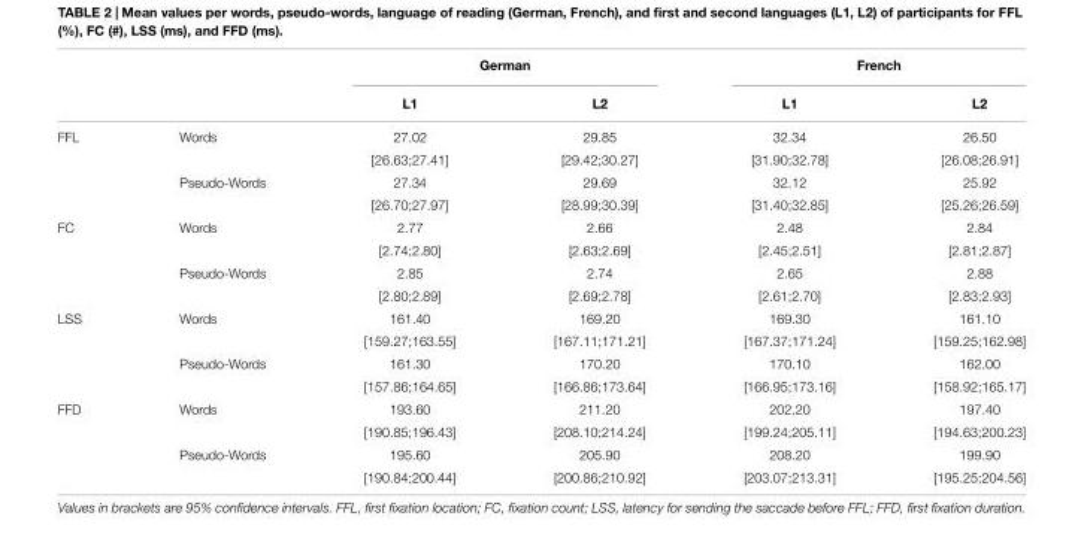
<table><thead><tr><td rowspan="2"></td><td rowspan="2"></td><td colspan="2">German</td><td colspan="2">French</td></tr><tr><td>L1</td><td>L2</td><td>L1</td><td>L2</td></tr></thead><tbody><tr><td rowspan="4">FFL</td><td>Words</td><td>27.02</td><td>29.85</td><td>32.34</td><td>26.50</td></tr><tr><td></td><td>[26.63;27.41]</td><td>[29.42;30.27]</td><td>[31.90;32.78]</td><td>[26.08;26.91]</td></tr><tr><td>Pseudo-Words</td><td>27.34</td><td>29.69</td><td>32.12</td><td>25.92</td></tr><tr><td></td><td>[26.70;27.97]</td><td>[28.99;30.39]</td><td>[31.40;32.85]</td><td>[25.26;26.59]</td></tr><tr><td rowspan="4">FC</td><td>Words</td><td>2.77</td><td>2.66</td><td>2.48</td><td>2.84</td></tr><tr><td></td><td>[2.74;2.80]</td><td>[2.63;2.69]</td><td>[2.45;2.51]</td><td>[2.81;2.87]</td></tr><tr><td>Pseudo-Words</td><td>2.85</td><td>2.74</td><td>2.65</td><td>2.88</td></tr><tr><td></td><td>[2.80;2.89]</td><td>[2.69;2.78]</td><td>[2.61;2.70]</td><td>[2.83;2.93]</td></tr><tr><td rowspan="4">LSS</td><td>Words</td><td>161.40</td><td>169.20</td><td>169.30</td><td>161.10</td></tr><tr><td></td><td>[159.27;163.55]</td><td>[167.11;171.21]</td><td>[167.37;171.24]</td><td>[159.25;162.98]</td></tr><tr><td>Pseudo-Words</td><td>161.30</td><td>170.20</td><td>170.10</td><td>162.00</td></tr><tr><td></td><td>[157.86;164.65]</td><td>[166.86;173.64]</td><td>[166.95;173.16]</td><td>[158.92;165.17]</td></tr><tr><td rowspan="4">FFD</td><td>Words</td><td>193.60</td><td>211.20</td><td>202.20</td><td>197.40</td></tr><tr><td></td><td>[190.85;196.43]</td><td>[208.10;214.24]</td><td>[199.24;205.11]</td><td>[194.63;200.23]</td></tr><tr><td>Pseudo-Words</td><td>195.60</td><td>205.90</td><td>208.20</td><td>199.90</td></tr><tr><td></td><td>[190.84;200.44]</td><td>[200.86;210.92]</td><td>[203.07;213.31]</td><td>[195.25;204.56]</td></tr></tbody></table>